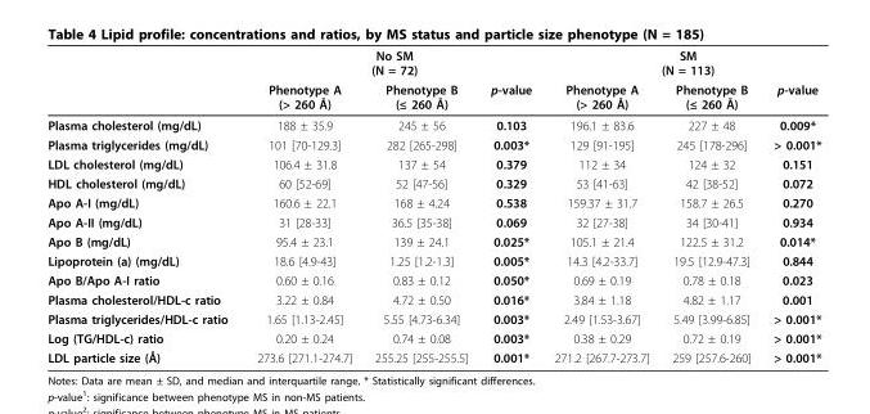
<table><thead><tr><td rowspan="2"></td><td colspan="3">No SM (N = 72)</td><td colspan="3">SM (N = 113)</td></tr><tr><td>Phenotype A (&gt; 260 Å)</td><td>Phenotype B (≤ 260 Å)</td><td>p-value</td><td>Phenotype A (&gt; 260 Å)</td><td>Phenotype B (≤ 260 Å)</td><td>p-value</td></tr></thead><tbody><tr><td>Plasma cholesterol (mg/dL)</td><td>188 ± 35.9</td><td>245 ± 56</td><td>0.103</td><td>196.1 ± 83.6</td><td>227 ± 48</td><td>0.009*</td></tr><tr><td>Plasma triglycerides (mg/dL)</td><td>101 [70-129.3]</td><td>282 [265-298]</td><td>0.003*</td><td>129 [91-195]</td><td>245 [178-296]</td><td>&gt; 0.001*</td></tr><tr><td>LDL cholesterol (mg/dL)</td><td>106.4 ± 31.8</td><td>137 ± 54</td><td>0.379</td><td>112 ± 34</td><td>124 ± 32</td><td>0.151</td></tr><tr><td>HDL cholesterol (mg/dL)</td><td>60 [52-69]</td><td>52 [47-56]</td><td>0.329</td><td>53 [41-63]</td><td>42 [38-52]</td><td>0.072</td></tr><tr><td>Apo A-I (mg/dL)</td><td>160.6 ± 22.1</td><td>168 ± 4.24</td><td>0.538</td><td>159.37 ± 31.7</td><td>158.7 ± 26.5</td><td>0.270</td></tr><tr><td>Apo A-II (mg/dL)</td><td>31 [28-33]</td><td>36.5 [35-38]</td><td>0.069</td><td>32 [27-38]</td><td>34 [30-41]</td><td>0.934</td></tr><tr><td>Apo B (mg/dL)</td><td>95.4 ± 23.1</td><td>139 ± 24.1</td><td>0.025*</td><td>105.1 ± 21.4</td><td>122.5 ± 31.2</td><td>0.014*</td></tr><tr><td>Lipoprotein (a) (mg/dL)</td><td>18.6 [4.9-43]</td><td>1.25 [1.2-1.3]</td><td>0.005*</td><td>14.3 [4.2-33.7]</td><td>19.5 [12.9-47.3]</td><td>0.844</td></tr><tr><td>Apo B/Apo A-I ratio</td><td>0.60 ± 0.16</td><td>0.83 ± 0.12</td><td>0.050*</td><td>0.69 ± 0.19</td><td>0.78 ± 0.18</td><td>0.023</td></tr><tr><td>Plasma cholesterol/HDL-c ratio</td><td>3.22 ± 0.84</td><td>4.72 ± 0.50</td><td>0.016*</td><td>3.84 ± 1.18</td><td>4.82 ± 1.17</td><td>0.001</td></tr><tr><td>Plasma triglycerides/HDL-c ratio</td><td>1.65 [1.13-2.45]</td><td>5.55 [4.73-6.34]</td><td>0.003*</td><td>2.49 [1.53-3.67]</td><td>5.49 [3.99-6.85]</td><td>&gt; 0.001*</td></tr><tr><td>Log (TG/HDL-c) ratio</td><td>0.20 ± 0.24</td><td>0.74 ± 0.08</td><td>0.003*</td><td>0.38 ± 0.29</td><td>0.72 ± 0.19</td><td>&gt; 0.001*</td></tr><tr><td>LDL particle size (Å)</td><td>273.6 [271.1-274.7]</td><td>255.25 [255-255.5]</td><td>0.001*</td><td>271.2 [267.7-273.7]</td><td>259 [257.6-260]</td><td>&gt; 0.001*</td></tr></tbody></table>